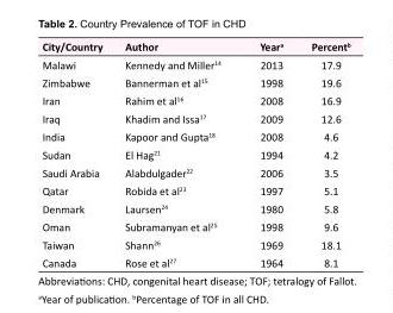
<table><tbody><tr><td>City/Country</td><td>Author</td><td>Year<sup>a</sup></td><td>Percent<sup>b</sup></td></tr><tr><td>Malawi</td><td>Kennedy and Miller<sup>14</sup></td><td>2013</td><td>17.9</td></tr><tr><td>Zimbabwe</td><td>Bannerman et al<sup>15</sup></td><td>1998</td><td>19.6</td></tr><tr><td>Iran</td><td>Rahim et al<sup>16</sup></td><td>2008</td><td>16.9</td></tr><tr><td>Iraq</td><td>Khadim and Issa<sup>17</sup></td><td>2009</td><td>12.6</td></tr><tr><td>India</td><td>Kapoor and Gupta<sup>18</sup></td><td>2008</td><td>4.6</td></tr><tr><td>Sudan</td><td>El Hag<sup>21</sup></td><td>1994</td><td>4.2</td></tr><tr><td>Saudi Arabia</td><td>Alabdulgader<sup>22</sup></td><td>2006</td><td>3.5</td></tr><tr><td>Qatar</td><td>Robida et al<sup>23</sup></td><td>1997</td><td>5.1</td></tr><tr><td>Denmark</td><td>Laursen<sup>24</sup></td><td>1980</td><td>5.8</td></tr><tr><td>Oman</td><td>Subramanyan et al<sup>25</sup></td><td>1998</td><td>9.6</td></tr><tr><td>Taiwan</td><td>Shann<sup>26</sup></td><td>1969</td><td>18.1</td></tr><tr><td>Canada</td><td>Rose et al<sup>27</sup></td><td>1964</td><td>8.1</td></tr></tbody></table>